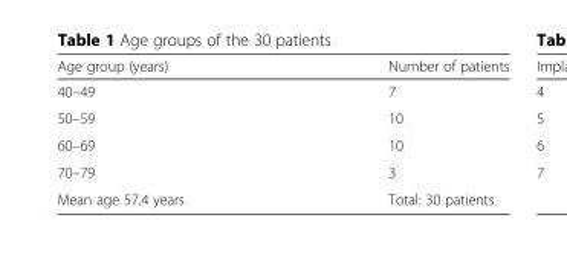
<table><thead><tr><td>Age group (years)</td><td>Number of patients</td></tr></thead><tbody><tr><td>40–49</td><td>7</td></tr><tr><td>50–59</td><td>10</td></tr><tr><td>60–69</td><td>10</td></tr><tr><td>70–79</td><td>3</td></tr><tr><td>Mean age 57.4 years</td><td>Total: 30 patients</td></tr></tbody></table>